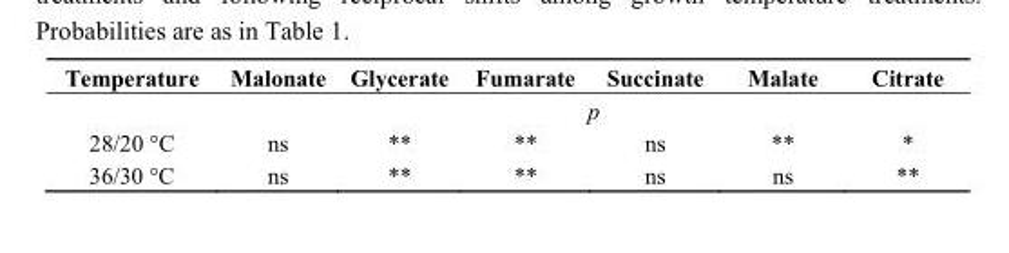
<table><thead><tr><td>Temperature</td><td>Malonate</td><td>Glycerate</td><td>Fumarate</td><td>Succinate</td><td>Malate</td><td>Citrate</td></tr></thead><tbody><tr><td></td><td colspan="6">p</td></tr><tr><td>28/20 °C</td><td>ns</td><td>**</td><td>**</td><td>ns</td><td>**</td><td>*</td></tr><tr><td>36/30 °C</td><td>ns</td><td>**</td><td>**</td><td>ns</td><td>ns</td><td>**</td></tr></tbody></table>